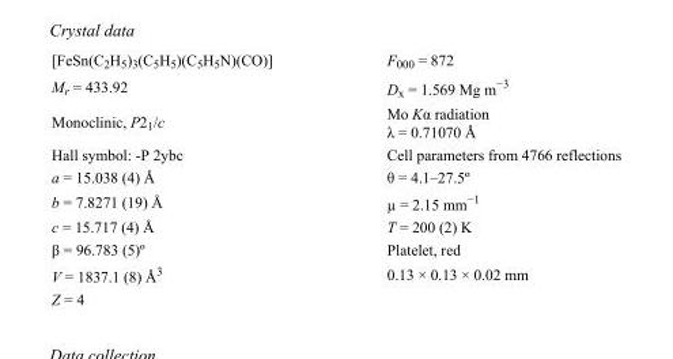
<table><tbody><tr><td>[FeSn(C<sub>2</sub>H<sub>5</sub>)<sub>3</sub>(C<sub>5</sub>H<sub>5</sub>)(C<sub>5</sub>H<sub>5</sub>N)(CO)]</td><td>F<sub>000</sub> = 872</td></tr><tr><td>M<sub>r</sub> = 433.92</td><td>D<sub>x</sub> = 1.569 Mg m<sup>−3</sup></td></tr><tr><td>Monoclinic, P2<sub>1</sub>/c</td><td>Mo Kα radiation λ = 0.71070 Å</td></tr><tr><td>Hall symbol: -P 2ybc</td><td>Cell parameters from 4766 reflections</td></tr><tr><td>a = 15.038 (4) Å</td><td>θ = 4.1–27.5º</td></tr><tr><td>b = 7.8271 (19) Å</td><td>µ = 2.15 mm<sup>−1</sup></td></tr><tr><td>c = 15.717 (4) Å</td><td>T = 200 (2) K</td></tr><tr><td>β = 96.783 (5)º</td><td>Platelet, red</td></tr><tr><td>V = 1837.1 (8) Å<sup>3</sup></td><td>0.13 × 0.13 × 0.02 mm</td></tr><tr><td>Z = 4</td><td></td></tr></tbody></table>